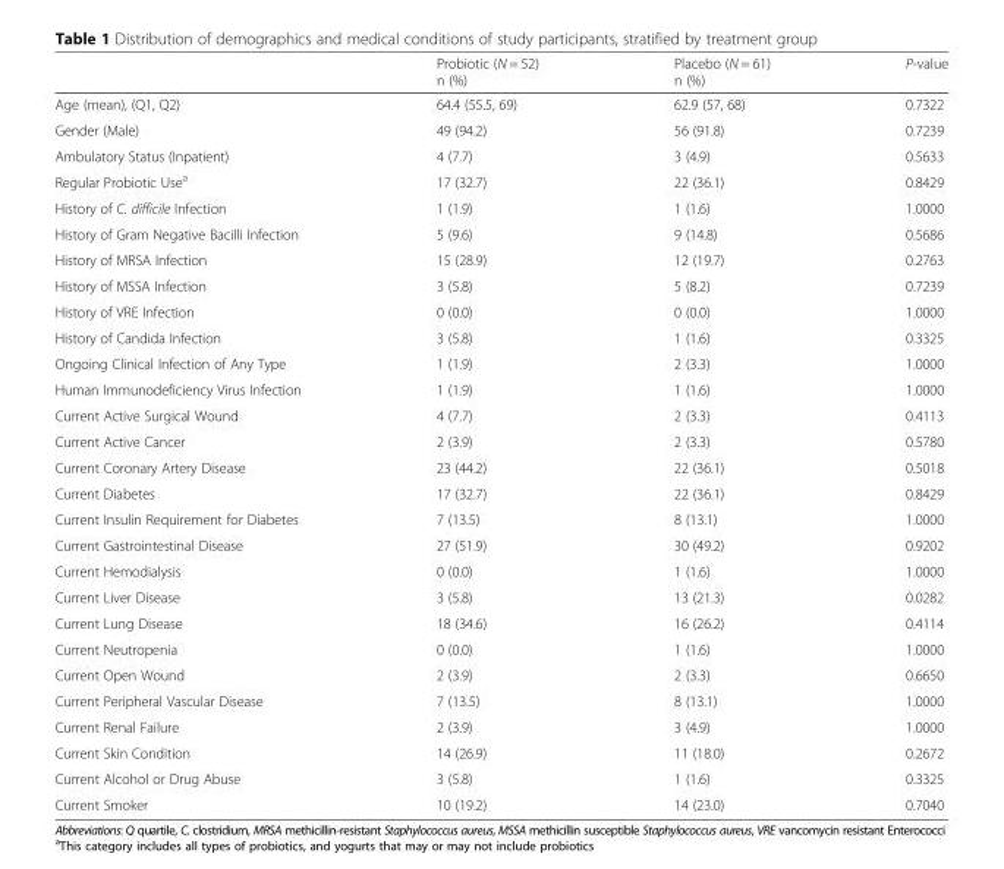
<table><thead><tr><td></td><td>Probiotic (N = 52) n (%)</td><td>Placebo (N = 61) n (%)</td><td>P-value</td></tr></thead><tbody><tr><td>Age (mean), (Q1, Q2)</td><td>64.4 (55.5, 69)</td><td>62.9 (57, 68)</td><td>0.7322</td></tr><tr><td>Gender (Male)</td><td>49 (94.2)</td><td>56 (91.8)</td><td>0.7239</td></tr><tr><td>Ambulatory Status (Inpatient)</td><td>4 (7.7)</td><td>3 (4.9)</td><td>0.5633</td></tr><tr><td>Regular Probiotic Use<sup>a</sup></td><td>17 (32.7)</td><td>22 (36.1)</td><td>0.8429</td></tr><tr><td>History of C. difficile Infection</td><td>1 (1.9)</td><td>1 (1.6)</td><td>1.0000</td></tr><tr><td>History of Gram Negative Bacilli Infection</td><td>5 (9.6)</td><td>9 (14.8)</td><td>0.5686</td></tr><tr><td>History of MRSA Infection</td><td>15 (28.9)</td><td>12 (19.7)</td><td>0.2763</td></tr><tr><td>History of MSSA Infection</td><td>3 (5.8)</td><td>5 (8.2)</td><td>0.7239</td></tr><tr><td>History of VRE Infection</td><td>0 (0.0)</td><td>0 (0.0)</td><td>1.0000</td></tr><tr><td>History of Candida Infection</td><td>3 (5.8)</td><td>1 (1.6)</td><td>0.3325</td></tr><tr><td>Ongoing Clinical Infection of Any Type</td><td>1 (1.9)</td><td>2 (3.3)</td><td>1.0000</td></tr><tr><td>Human Immunodeficiency Virus Infection</td><td>1 (1.9)</td><td>1 (1.6)</td><td>1.0000</td></tr><tr><td>Current Active Surgical Wound</td><td>4 (7.7)</td><td>2 (3.3)</td><td>0.4113</td></tr><tr><td>Current Active Cancer</td><td>2 (3.9)</td><td>2 (3.3)</td><td>0.5780</td></tr><tr><td>Current Coronary Artery Disease</td><td>23 (44.2)</td><td>22 (36.1)</td><td>0.5018</td></tr><tr><td>Current Diabetes</td><td>17 (32.7)</td><td>22 (36.1)</td><td>0.8429</td></tr><tr><td>Current Insulin Requirement for Diabetes</td><td>7 (13.5)</td><td>8 (13.1)</td><td>1.0000</td></tr><tr><td>Current Gastrointestinal Disease</td><td>27 (51.9)</td><td>30 (49.2)</td><td>0.9202</td></tr><tr><td>Current Hemodialysis</td><td>0 (0.0)</td><td>1 (1.6)</td><td>1.0000</td></tr><tr><td>Current Liver Disease</td><td>3 (5.8)</td><td>13 (21.3)</td><td>0.0282</td></tr><tr><td>Current Lung Disease</td><td>18 (34.6)</td><td>16 (26.2)</td><td>0.4114</td></tr><tr><td>Current Neutropenia</td><td>0 (0.0)</td><td>1 (1.6)</td><td>1.0000</td></tr><tr><td>Current Open Wound</td><td>2 (3.9)</td><td>2 (3.3)</td><td>0.6650</td></tr><tr><td>Current Peripheral Vascular Disease</td><td>7 (13.5)</td><td>8 (13.1)</td><td>1.0000</td></tr><tr><td>Current Renal Failure</td><td>2 (3.9)</td><td>3 (4.9)</td><td>1.0000</td></tr><tr><td>Current Skin Condition</td><td>14 (26.9)</td><td>11 (18.0)</td><td>0.2672</td></tr><tr><td>Current Alcohol or Drug Abuse</td><td>3 (5.8)</td><td>1 (1.6)</td><td>0.3325</td></tr><tr><td>Current Smoker</td><td>10 (19.2)</td><td>14 (23.0)</td><td>0.7040</td></tr></tbody></table>